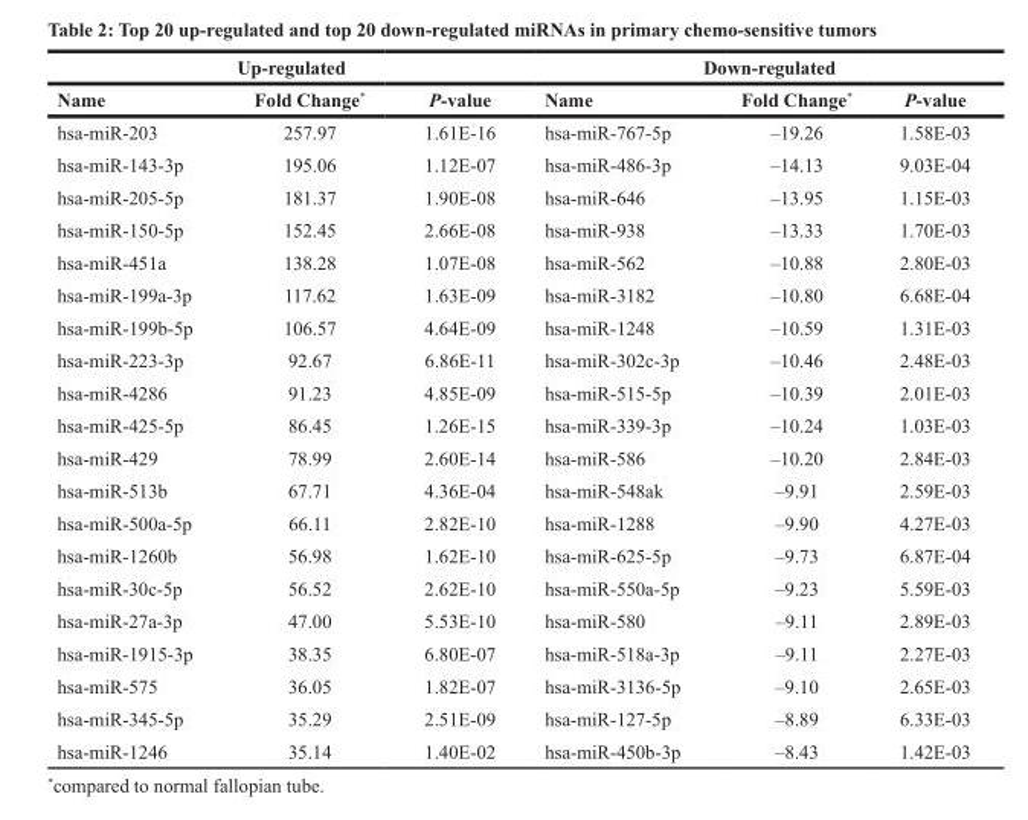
<table><thead><tr><td colspan="3">Up-regulated</td><td colspan="3">Down-regulated</td></tr><tr><td>Name</td><td>Fold Change*</td><td>P-value</td><td>Name</td><td>Fold Change*</td><td>P-value</td></tr></thead><tbody><tr><td>hsa-miR-203</td><td>257.97</td><td>1.61E-16</td><td>hsa-miR-767-5p</td><td>–19.26</td><td>1.58E-03</td></tr><tr><td>hsa-miR-143-3p</td><td>195.06</td><td>1.12E-07</td><td>hsa-miR-486-3p</td><td>–14.13</td><td>9.03E-04</td></tr><tr><td>hsa-miR-205-5p</td><td>181.37</td><td>1.90E-08</td><td>hsa-miR-646</td><td>–13.95</td><td>1.15E-03</td></tr><tr><td>hsa-miR-150-5p</td><td>152.45</td><td>2.66E-08</td><td>hsa-miR-938</td><td>–13.33</td><td>1.70E-03</td></tr><tr><td>hsa-miR-451a</td><td>138.28</td><td>1.07E-08</td><td>hsa-miR-562</td><td>–10.88</td><td>2.80E-03</td></tr><tr><td>hsa-miR-199a-3p</td><td>117.62</td><td>1.63E-09</td><td>hsa-miR-3182</td><td>–10.80</td><td>6.68E-04</td></tr><tr><td>hsa-miR-199b-5p</td><td>106.57</td><td>4.64E-09</td><td>hsa-miR-1248</td><td>–10.59</td><td>1.31E-03</td></tr><tr><td>hsa-miR-223-3p</td><td>92.67</td><td>6.86E-11</td><td>hsa-miR-302c-3p</td><td>–10.46</td><td>2.48E-03</td></tr><tr><td>hsa-miR-4286</td><td>91.23</td><td>4.85E-09</td><td>hsa-miR-515-5p</td><td>–10.39</td><td>2.01E-03</td></tr><tr><td>hsa-miR-425-5p</td><td>86.45</td><td>1.26E-15</td><td>hsa-miR-339-3p</td><td>–10.24</td><td>1.03E-03</td></tr><tr><td>hsa-miR-429</td><td>78.99</td><td>2.60E-14</td><td>hsa-miR-586</td><td>–10.20</td><td>2.84E-03</td></tr><tr><td>hsa-miR-513b</td><td>67.71</td><td>4.36E-04</td><td>hsa-miR-548ak</td><td>–9.91</td><td>2.59E-03</td></tr><tr><td>hsa-miR-500a-5p</td><td>66.11</td><td>2.82E-10</td><td>hsa-miR-1288</td><td>–9.90</td><td>4.27E-03</td></tr><tr><td>hsa-miR-1260b</td><td>56.98</td><td>1.62E-10</td><td>hsa-miR-625-5p</td><td>–9.73</td><td>6.87E-04</td></tr><tr><td>hsa-miR-30c-5p</td><td>56.52</td><td>2.62E-10</td><td>hsa-miR-550a-5p</td><td>–9.23</td><td>5.59E-03</td></tr><tr><td>hsa-miR-27a-3p</td><td>47.00</td><td>5.53E-10</td><td>hsa-miR-580</td><td>–9.11</td><td>2.89E-03</td></tr><tr><td>hsa-miR-1915-3p</td><td>38.35</td><td>6.80E-07</td><td>hsa-miR-518a-3p</td><td>–9.11</td><td>2.27E-03</td></tr><tr><td>hsa-miR-575</td><td>36.05</td><td>1.82E-07</td><td>hsa-miR-3136-5p</td><td>–9.10</td><td>2.65E-03</td></tr><tr><td>hsa-miR-345-5p</td><td>35.29</td><td>2.51E-09</td><td>hsa-miR-127-5p</td><td>–8.89</td><td>6.33E-03</td></tr><tr><td>hsa-miR-1246</td><td>35.14</td><td>1.40E-02</td><td>hsa-miR-450b-3p</td><td>–8.43</td><td>1.42E-03</td></tr></tbody></table>